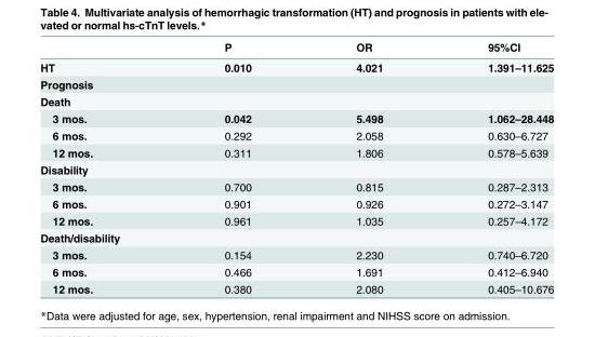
<table><thead><tr><td></td><td>P</td><td>OR</td><td>95%CI</td></tr></thead><tbody><tr><td>HT</td><td>0.010</td><td>4.021</td><td>1.391–11.625</td></tr><tr><td colspan="4">Prognosis</td></tr><tr><td colspan="4">Death</td></tr><tr><td>3 mos.</td><td>0.042</td><td>5.498</td><td>1.062–28.448</td></tr><tr><td>6 mos.</td><td>0.292</td><td>2.058</td><td>0.630–6.727</td></tr><tr><td>12 mos.</td><td>0.311</td><td>1.806</td><td>0.578–5.639</td></tr><tr><td colspan="4">Disability</td></tr><tr><td>3 mos.</td><td>0.700</td><td>0.815</td><td>0.287–2.313</td></tr><tr><td>6 mos.</td><td>0.901</td><td>0.926</td><td>0.272–3.147</td></tr><tr><td>12 mos.</td><td>0.961</td><td>1.035</td><td>0.257–4.172</td></tr><tr><td colspan="4">Death/disability</td></tr><tr><td>3 mos.</td><td>0.154</td><td>2.230</td><td>0.740–6.720</td></tr><tr><td>6 mos.</td><td>0.466</td><td>1.691</td><td>0.412–6.940</td></tr><tr><td>12 mos.</td><td>0.380</td><td>2.080</td><td>0.405–10.676</td></tr></tbody></table>